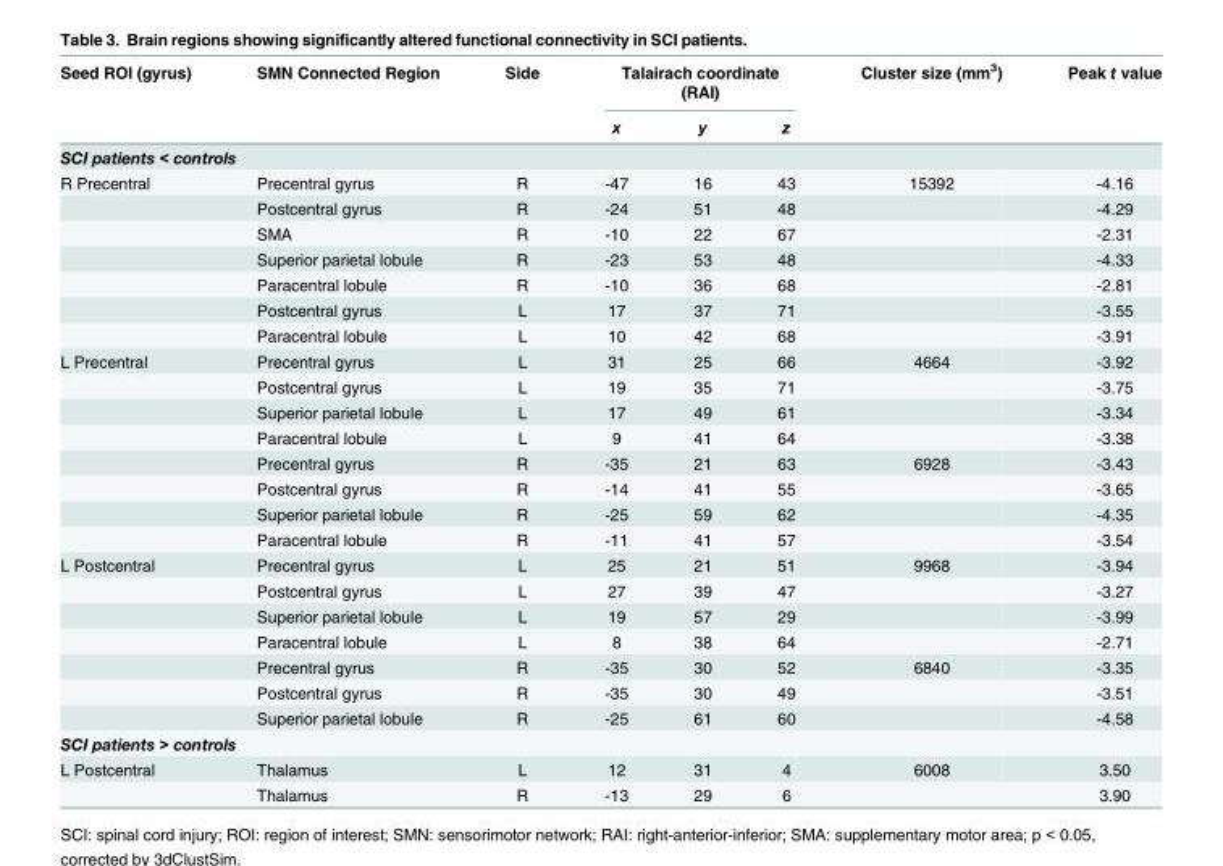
<table><thead><tr><td rowspan="2">Seed ROI (gyrus)</td><td rowspan="2">SMN Connected Region</td><td rowspan="2">Side</td><td colspan="3">Talairach coordinate (RAI)</td><td rowspan="2">Cluster size (mm<sup>3</sup>)</td><td rowspan="2">Peak t value</td></tr><tr><td>x</td><td>y</td><td>z</td></tr></thead><tbody><tr><td colspan="8">SCI patients &lt; controls</td></tr><tr><td rowspan="7">R Precentral</td><td>Precentral gyrus</td><td>R</td><td>-47</td><td>16</td><td>43</td><td>15392</td><td>-4.16</td></tr><tr><td>Postcentral gyrus</td><td>R</td><td>-24</td><td>51</td><td>48</td><td></td><td>-4.29</td></tr><tr><td>SMA</td><td>R</td><td>-10</td><td>22</td><td>67</td><td></td><td>-2.31</td></tr><tr><td>Superior parietal lobule</td><td>R</td><td>-23</td><td>53</td><td>48</td><td></td><td>-4.33</td></tr><tr><td>Paracentral lobule</td><td>R</td><td>-10</td><td>36</td><td>68</td><td></td><td>-2.81</td></tr><tr><td>Postcentral gyrus</td><td>L</td><td>17</td><td>37</td><td>71</td><td></td><td>-3.55</td></tr><tr><td>Paracentral lobule</td><td>L</td><td>10</td><td>42</td><td>68</td><td></td><td>-3.91</td></tr><tr><td rowspan="8">L Precentral</td><td>Precentral gyrus</td><td>L</td><td>31</td><td>25</td><td>66</td><td>4664</td><td>-3.92</td></tr><tr><td>Postcentral gyrus</td><td>L</td><td>19</td><td>35</td><td>71</td><td></td><td>-3.75</td></tr><tr><td>Superior parietal lobule</td><td>L</td><td>17</td><td>49</td><td>61</td><td></td><td>-3.34</td></tr><tr><td>Paracentral lobule</td><td>L</td><td>9</td><td>41</td><td>64</td><td></td><td>-3.38</td></tr><tr><td>Precentral gyrus</td><td>R</td><td>-35</td><td>21</td><td>63</td><td>6928</td><td>-3.43</td></tr><tr><td>Postcentral gyrus</td><td>R</td><td>-14</td><td>41</td><td>55</td><td></td><td>-3.65</td></tr><tr><td>Superior parietal lobule</td><td>R</td><td>-25</td><td>59</td><td>62</td><td></td><td>-4.35</td></tr><tr><td>Paracentral lobule</td><td>R</td><td>-11</td><td>41</td><td>57</td><td></td><td>-3.54</td></tr><tr><td rowspan="7">L Postcentral</td><td>Precentral gyrus</td><td>L</td><td>25</td><td>21</td><td>51</td><td>9968</td><td>-3.94</td></tr><tr><td>Postcentral gyrus</td><td>L</td><td>27</td><td>39</td><td>47</td><td></td><td>-3.27</td></tr><tr><td>Superior parietal lobule</td><td>L</td><td>19</td><td>57</td><td>29</td><td></td><td>-3.99</td></tr><tr><td>Paracentral lobule</td><td>L</td><td>8</td><td>38</td><td>64</td><td></td><td>-2.71</td></tr><tr><td>Precentral gyrus</td><td>R</td><td>-35</td><td>30</td><td>52</td><td>6840</td><td>-3.35</td></tr><tr><td>Postcentral gyrus</td><td>R</td><td>-35</td><td>30</td><td>49</td><td></td><td>-3.51</td></tr><tr><td>Superior parietal lobule</td><td>R</td><td>-25</td><td>61</td><td>60</td><td></td><td>-4.58</td></tr><tr><td colspan="8">SCI patients &gt; controls</td></tr><tr><td rowspan="2">L Postcentral</td><td>Thalamus</td><td>L</td><td>12</td><td>31</td><td>4</td><td>6008</td><td>3.50</td></tr><tr><td>Thalamus</td><td>R</td><td>-13</td><td>29</td><td>6</td><td></td><td>3.90</td></tr></tbody></table>